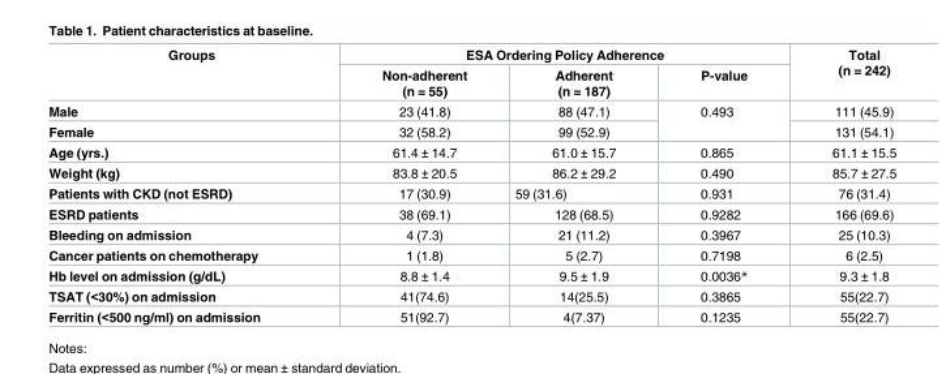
<table><thead><tr><td rowspan="2">Groups</td><td colspan="3">ESA Ordering Policy Adherence</td><td rowspan="2">Total (n = 242)</td></tr><tr><td>Non-adherent (n = 55)</td><td>Adherent (n = 187)</td><td>P-value</td></tr></thead><tbody><tr><td>Male</td><td>23 (41.8)</td><td>88 (47.1)</td><td rowspan="2">0.493</td><td>111 (45.9)</td></tr><tr><td>Female</td><td>32 (58.2)</td><td>99 (52.9)</td><td>131 (54.1)</td></tr><tr><td>Age (yrs.)</td><td>61.4 ± 14.7</td><td>61.0 ± 15.7</td><td>0.865</td><td>61.1 ± 15.5</td></tr><tr><td>Weight (kg)</td><td>83.8 ± 20.5</td><td>86.2 ± 29.2</td><td>0.490</td><td>85.7 ± 27.5</td></tr><tr><td>Patients with CKD (not ESRD)</td><td>17 (30.9)</td><td>59 (31.6)</td><td>0.931</td><td>76 (31.4)</td></tr><tr><td>ESRD patients</td><td>38 (69.1)</td><td>128 (68.5)</td><td>0.9282</td><td>166 (69.6)</td></tr><tr><td>Bleeding on admission</td><td>4 (7.3)</td><td>21 (11.2)</td><td>0.3967</td><td>25 (10.3)</td></tr><tr><td>Cancer patients on chemotherapy</td><td>1 (1.8)</td><td>5 (2.7)</td><td>0.7198</td><td>6 (2.5)</td></tr><tr><td>Hb level on admission (g/dL)</td><td>8.8 ± 1.4</td><td>9.5 ± 1.9</td><td>0.0036*</td><td>9.3 ± 1.8</td></tr><tr><td>TSAT (&lt;30%) on admission</td><td>41(74.6)</td><td>14(25.5)</td><td>0.3865</td><td>55(22.7)</td></tr><tr><td>Ferritin (&lt;500 ng/ml) on admission</td><td>51(92.7)</td><td>4(7.37)</td><td>0.1235</td><td>55(22.7)</td></tr></tbody></table>